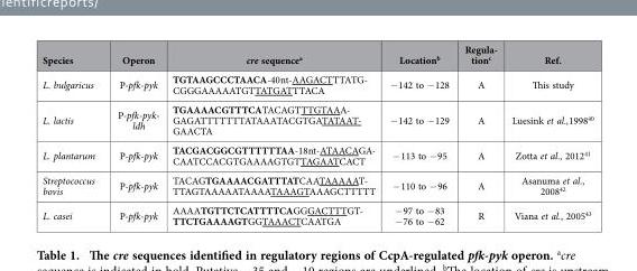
<table><thead><tr><td>Species</td><td>Operon</td><td>cre sequence<sup>a</sup></td><td>Location<sup>b</sup></td><td>Regula- tionc</td><td>Ref.</td></tr></thead><tbody><tr><td>L. bulgaricus</td><td>P-pfk-pyk</td><td>TGTAAGCCCTAACA-40nt-AAGACTTTATG- CGGGAAAAATGTTATGATTTACA</td><td>− 142 to − 128</td><td>A</td><td>This study</td></tr><tr><td>L. lactis</td><td>P-pfk-pyk- ldh</td><td>TGAAAACGTTTCATACAGTTTGTAAA- GAGATTTTTTTATAAATACGTGATATAAT- GAACTA</td><td>− 142 to − 129</td><td>A</td><td>Luesink et al.,1998<sup>40</sup></td></tr><tr><td>L. plantarum</td><td>P-pfk-pyk</td><td>TACGACGGCGTTTTTTAA-18nt-ATAACAGA- CAATCCACGTGAAAAGTGTTAGAATCACT</td><td>− 113 to − 95</td><td>A</td><td>Zotta et al., 2012<sup>41</sup></td></tr><tr><td>Streptococcus bovis</td><td>P-pfk-pyk</td><td>TACAGTGAAAACGATTTATCAATAAAAAT- TTAGTAAAAATAAAATAAAGTAAAGCTTTTT</td><td>− 110 to − 96</td><td>A</td><td>Asanuma et al., 2008<sup>42</sup></td></tr><tr><td>L. casei</td><td>P-pfk-pyk</td><td>AAAATGTTCTCATTTTCAGGGACTTTGT- TTCTGAAAAGTGGTAAACTCAATGA</td><td>− 97 to − 83 − 76 to − 62</td><td>R</td><td>Viana et al., 2005<sup>43</sup></td></tr></tbody></table>